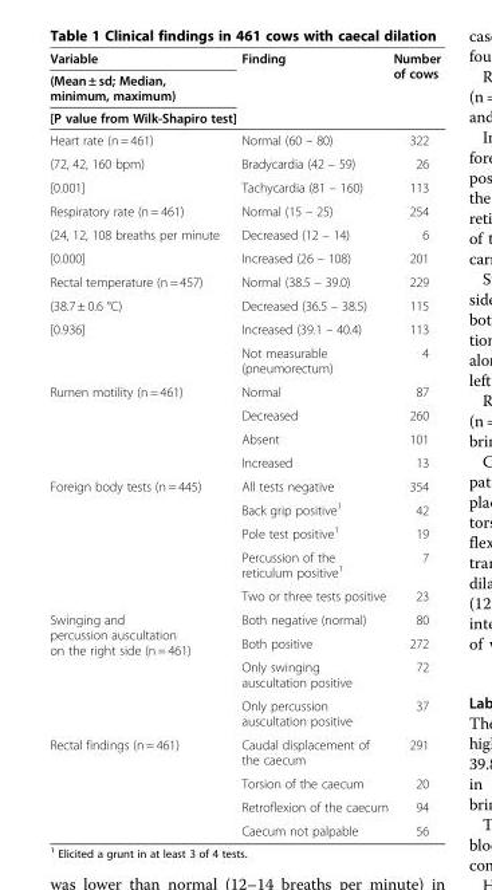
<table><thead><tr><td rowspan="3">Variable (Mean ± sd; Median, minimum, maximum) [P value from Wilk-Shapiro test]</td><td rowspan="3">Finding</td><td rowspan="3">Number of cows</td></tr><tr></tr><tr></tr></thead><tbody><tr><td>Heart rate (n = 461)</td><td>Normal (60 – 80)</td><td>322</td></tr><tr><td>(72, 42, 160 bpm)</td><td>Bradycardia (42 – 59)</td><td>26</td></tr><tr><td>[0.001]</td><td>Tachycardia (81 – 160)</td><td>113</td></tr><tr><td>Respiratory rate (n = 461)</td><td>Normal (15 – 25)</td><td>254</td></tr><tr><td>(24, 12, 108 breaths per minute</td><td>Decreased (12 – 14)</td><td>6</td></tr><tr><td>[0.000]</td><td>Increased (26 – 108)</td><td>201</td></tr><tr><td>Rectal temperature (n = 457)</td><td>Normal (38.5 – 39.0)</td><td>229</td></tr><tr><td>(38.7 ± 0.6 °C)</td><td>Decreased (36.5 – 38.5)</td><td>115</td></tr><tr><td rowspan="2">[0.936]</td><td>Increased (39.1 – 40.4)</td><td>113</td></tr><tr><td>Not measurable (pneumorectum)</td><td>4</td></tr><tr><td rowspan="4">Rumen motility (n = 461)</td><td>Normal</td><td>87</td></tr><tr><td>Decreased</td><td>260</td></tr><tr><td>Absent</td><td>101</td></tr><tr><td>Increased</td><td>13</td></tr><tr><td rowspan="5">Foreign body tests (n = 445)</td><td>All tests negative</td><td>354</td></tr><tr><td>Back grip positive<sup>1</sup></td><td>42</td></tr><tr><td>Pole test positive<sup>1</sup></td><td>19</td></tr><tr><td>Percussion of the reticulum positive<sup>1</sup></td><td>7</td></tr><tr><td>Two or three tests positive</td><td>23</td></tr><tr><td rowspan="4">Swinging and percussion auscultation on the right side (n = 461)</td><td>Both negative (normal)</td><td>80</td></tr><tr><td>Both positive</td><td>272</td></tr><tr><td>Only swinging auscultation positive</td><td>72</td></tr><tr><td>Only percussion auscultation positive</td><td>37</td></tr><tr><td rowspan="4">Rectal findings (n = 461)</td><td>Caudal displacement of the caecum</td><td>291</td></tr><tr><td>Torsion of the caecum</td><td>20</td></tr><tr><td>Retroflexion of the caecum</td><td>94</td></tr><tr><td>Caecum not palpable</td><td>56</td></tr></tbody></table>